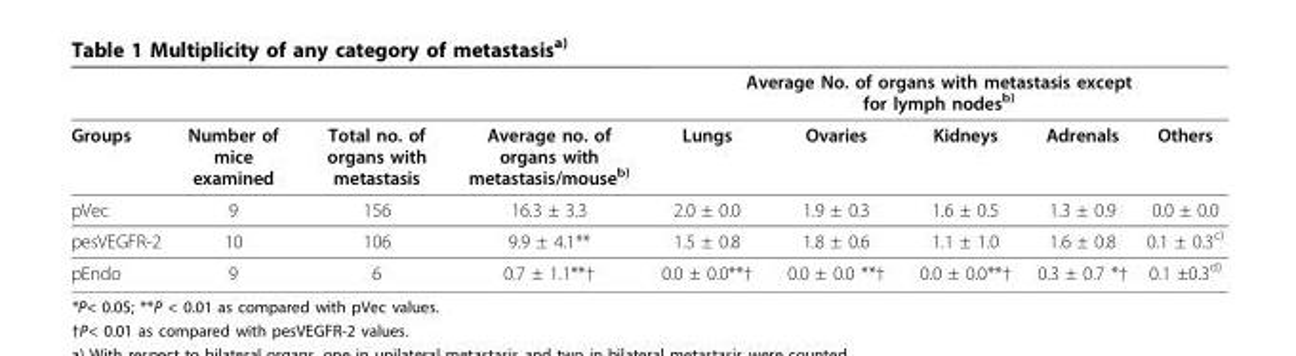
<table><thead><tr><td rowspan="2">Groups</td><td rowspan="2">Number of mice examined</td><td rowspan="2">Total no. of organs with metastasis</td><td rowspan="2">Average no. of organs with metastasis/mouse<sup>b)</sup></td><td colspan="5">Average No. of organs with metastasis except for lymph nodes<sup>b)</sup></td></tr><tr><td>Lungs</td><td>Ovaries</td><td>Kidneys</td><td>Adrenals</td><td>Others</td></tr></thead><tbody><tr><td>pVec</td><td>9</td><td>156</td><td>16.3 ± 3.3</td><td>2.0 ± 0.0</td><td>1.9 ± 0.3</td><td>1.6 ± 0.5</td><td>1.3 ± 0.9</td><td>0.0 ± 0.0</td></tr><tr><td>pesVEGFR-2</td><td>10</td><td>106</td><td>9.9 ± 4.1**</td><td>1.5 ± 0.8</td><td>1.8 ± 0.6</td><td>1.1 ± 1.0</td><td>1.6 ± 0.8</td><td>0.1 ± 0.3<sup>c)</sup></td></tr><tr><td>pEndo</td><td>9</td><td>6</td><td>0.7 ± 1.1**†</td><td>0.0 ± 0.0**†</td><td>0.0 ± 0.0 **†</td><td>0.0 ± 0.0**†</td><td>0.3 ± 0.7 *†</td><td>0.1 ±0.3<sup>d)</sup></td></tr></tbody></table>